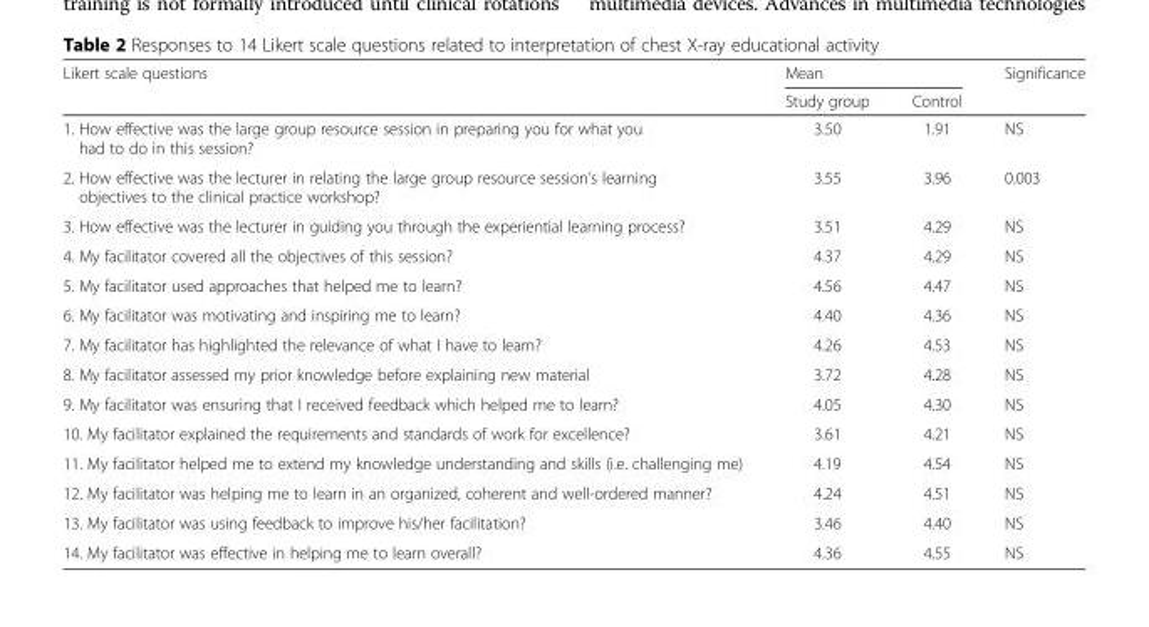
<table><thead><tr><td rowspan="2">Likert scale questions</td><td colspan="2">Mean</td><td rowspan="2">Significance</td></tr><tr><td>Study group</td><td>Control</td></tr></thead><tbody><tr><td>1. How effective was the large group resource session in preparing you for what you had to do in this session?</td><td>3.50</td><td>1.91</td><td>NS</td></tr><tr><td>2. How effective was the lecturer in relating the large group resource session’s learning objectives to the clinical practice workshop?</td><td>3.55</td><td>3.96</td><td>0.003</td></tr><tr><td>3. How effective was the lecturer in guiding you through the experiential learning process?</td><td>3.51</td><td>4.29</td><td>NS</td></tr><tr><td>4. My facilitator covered all the objectives of this session?</td><td>4.37</td><td>4.29</td><td>NS</td></tr><tr><td>5. My facilitator used approaches that helped me to learn?</td><td>4.56</td><td>4.47</td><td>NS</td></tr><tr><td>6. My facilitator was motivating and inspiring me to learn?</td><td>4.40</td><td>4.36</td><td>NS</td></tr><tr><td>7. My facilitator has highlighted the relevance of what I have to learn?</td><td>4.26</td><td>4.53</td><td>NS</td></tr><tr><td>8. My facilitator assessed my prior knowledge before explaining new material</td><td>3.72</td><td>4.28</td><td>NS</td></tr><tr><td>9. My facilitator was ensuring that I received feedback which helped me to learn?</td><td>4.05</td><td>4.30</td><td>NS</td></tr><tr><td>10. My facilitator explained the requirements and standards of work for excellence?</td><td>3.61</td><td>4.21</td><td>NS</td></tr><tr><td>11. My facilitator helped me to extend my knowledge understanding and skills (i.e. challenging me)</td><td>4.19</td><td>4.54</td><td>NS</td></tr><tr><td>12. My facilitator was helping me to learn in an organized, coherent and well-ordered manner?</td><td>4.24</td><td>4.51</td><td>NS</td></tr><tr><td>13. My facilitator was using feedback to improve his/her facilitation?</td><td>3.46</td><td>4.40</td><td>NS</td></tr><tr><td>14. My facilitator was effective in helping me to learn overall?</td><td>4.36</td><td>4.55</td><td>NS</td></tr></tbody></table>